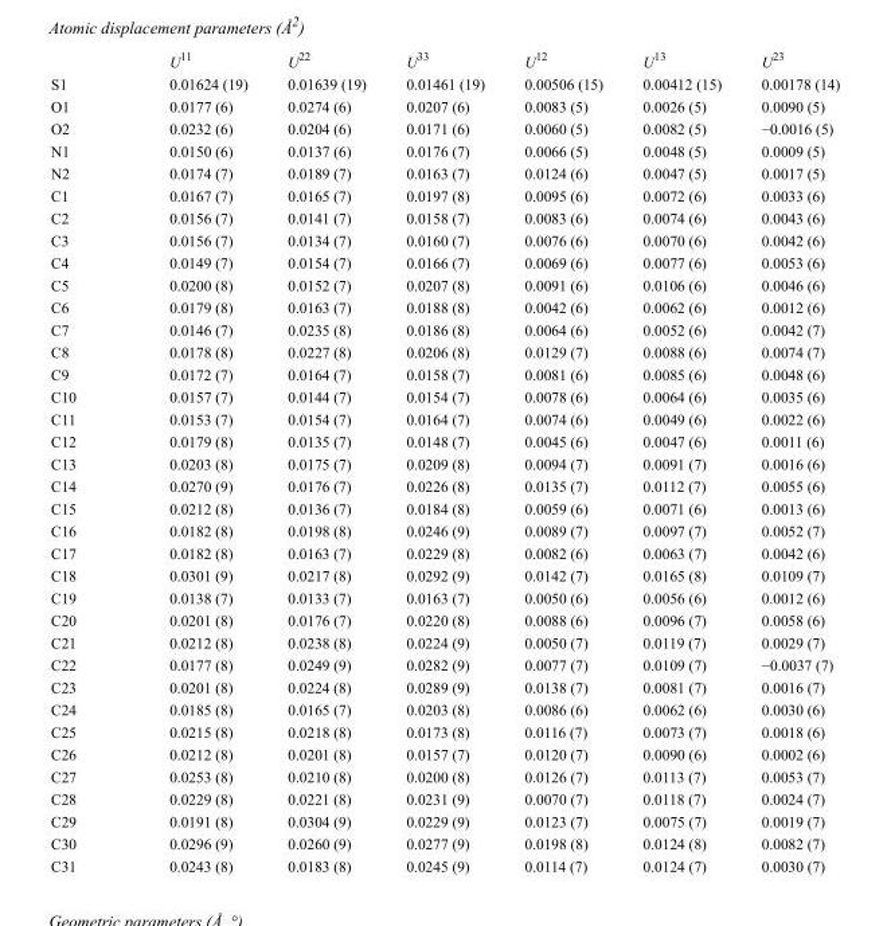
<table><thead><tr><td></td><td>U<sup>11</sup></td><td>U<sup>22</sup></td><td>U<sup>33</sup></td><td>U<sup>12</sup></td><td>U<sup>13</sup></td><td>U<sup>23</sup></td></tr></thead><tbody><tr><td>S1</td><td>0.01624 (19)</td><td>0.01639 (19)</td><td>0.01461 (19)</td><td>0.00506 (15)</td><td>0.00412 (15)</td><td>0.00178 (14)</td></tr><tr><td>O1</td><td>0.0177 (6)</td><td>0.0274 (6)</td><td>0.0207 (6)</td><td>0.0083 (5)</td><td>0.0026 (5)</td><td>0.0090 (5)</td></tr><tr><td>O2</td><td>0.0232 (6)</td><td>0.0204 (6)</td><td>0.0171 (6)</td><td>0.0060 (5)</td><td>0.0082 (5)</td><td>−0.0016 (5)</td></tr><tr><td>N1</td><td>0.0150 (6)</td><td>0.0137 (6)</td><td>0.0176 (7)</td><td>0.0066 (5)</td><td>0.0048 (5)</td><td>0.0009 (5)</td></tr><tr><td>N2</td><td>0.0174 (7)</td><td>0.0189 (7)</td><td>0.0163 (7)</td><td>0.0124 (6)</td><td>0.0047 (5)</td><td>0.0017 (5)</td></tr><tr><td>C1</td><td>0.0167 (7)</td><td>0.0165 (7)</td><td>0.0197 (8)</td><td>0.0095 (6)</td><td>0.0072 (6)</td><td>0.0033 (6)</td></tr><tr><td>C2</td><td>0.0156 (7)</td><td>0.0141 (7)</td><td>0.0158 (7)</td><td>0.0083 (6)</td><td>0.0074 (6)</td><td>0.0043 (6)</td></tr><tr><td>C3</td><td>0.0156 (7)</td><td>0.0134 (7)</td><td>0.0160 (7)</td><td>0.0076 (6)</td><td>0.0070 (6)</td><td>0.0042 (6)</td></tr><tr><td>C4</td><td>0.0149 (7)</td><td>0.0154 (7)</td><td>0.0166 (7)</td><td>0.0069 (6)</td><td>0.0077 (6)</td><td>0.0053 (6)</td></tr><tr><td>C5</td><td>0.0200 (8)</td><td>0.0152 (7)</td><td>0.0207 (8)</td><td>0.0091 (6)</td><td>0.0106 (6)</td><td>0.0046 (6)</td></tr><tr><td>C6</td><td>0.0179 (8)</td><td>0.0163 (7)</td><td>0.0188 (8)</td><td>0.0042 (6)</td><td>0.0062 (6)</td><td>0.0012 (6)</td></tr><tr><td>C7</td><td>0.0146 (7)</td><td>0.0235 (8)</td><td>0.0186 (8)</td><td>0.0064 (6)</td><td>0.0052 (6)</td><td>0.0042 (7)</td></tr><tr><td>C8</td><td>0.0178 (8)</td><td>0.0227 (8)</td><td>0.0206 (8)</td><td>0.0129 (7)</td><td>0.0088 (6)</td><td>0.0074 (7)</td></tr><tr><td>C9</td><td>0.0172 (7)</td><td>0.0164 (7)</td><td>0.0158 (7)</td><td>0.0081 (6)</td><td>0.0085 (6)</td><td>0.0048 (6)</td></tr><tr><td>C10</td><td>0.0157 (7)</td><td>0.0144 (7)</td><td>0.0154 (7)</td><td>0.0078 (6)</td><td>0.0064 (6)</td><td>0.0035 (6)</td></tr><tr><td>C11</td><td>0.0153 (7)</td><td>0.0154 (7)</td><td>0.0164 (7)</td><td>0.0074 (6)</td><td>0.0049 (6)</td><td>0.0022 (6)</td></tr><tr><td>C12</td><td>0.0179 (8)</td><td>0.0135 (7)</td><td>0.0148 (7)</td><td>0.0045 (6)</td><td>0.0047 (6)</td><td>0.0011 (6)</td></tr><tr><td>C13</td><td>0.0203 (8)</td><td>0.0175 (7)</td><td>0.0209 (8)</td><td>0.0094 (7)</td><td>0.0091 (7)</td><td>0.0016 (6)</td></tr><tr><td>C14</td><td>0.0270 (9)</td><td>0.0176 (7)</td><td>0.0226 (8)</td><td>0.0135 (7)</td><td>0.0112 (7)</td><td>0.0055 (6)</td></tr><tr><td>C15</td><td>0.0212 (8)</td><td>0.0136 (7)</td><td>0.0184 (8)</td><td>0.0059 (6)</td><td>0.0071 (6)</td><td>0.0013 (6)</td></tr><tr><td>C16</td><td>0.0182 (8)</td><td>0.0198 (8)</td><td>0.0246 (9)</td><td>0.0089 (7)</td><td>0.0097 (7)</td><td>0.0052 (7)</td></tr><tr><td>C17</td><td>0.0182 (8)</td><td>0.0163 (7)</td><td>0.0229 (8)</td><td>0.0082 (6)</td><td>0.0063 (7)</td><td>0.0042 (6)</td></tr><tr><td>C18</td><td>0.0301 (9)</td><td>0.0217 (8)</td><td>0.0292 (9)</td><td>0.0142 (7)</td><td>0.0165 (8)</td><td>0.0109 (7)</td></tr><tr><td>C19</td><td>0.0138 (7)</td><td>0.0133 (7)</td><td>0.0163 (7)</td><td>0.0050 (6)</td><td>0.0056 (6)</td><td>0.0012 (6)</td></tr><tr><td>C20</td><td>0.0201 (8)</td><td>0.0176 (7)</td><td>0.0220 (8)</td><td>0.0088 (6)</td><td>0.0096 (7)</td><td>0.0058 (6)</td></tr><tr><td>C21</td><td>0.0212 (8)</td><td>0.0238 (8)</td><td>0.0224 (9)</td><td>0.0050 (7)</td><td>0.0119 (7)</td><td>0.0029 (7)</td></tr><tr><td>C22</td><td>0.0177 (8)</td><td>0.0249 (9)</td><td>0.0282 (9)</td><td>0.0077 (7)</td><td>0.0109 (7)</td><td>−0.0037 (7)</td></tr><tr><td>C23</td><td>0.0201 (8)</td><td>0.0224 (8)</td><td>0.0289 (9)</td><td>0.0138 (7)</td><td>0.0081 (7)</td><td>0.0016 (7)</td></tr><tr><td>C24</td><td>0.0185 (8)</td><td>0.0165 (7)</td><td>0.0203 (8)</td><td>0.0086 (6)</td><td>0.0062 (6)</td><td>0.0030 (6)</td></tr><tr><td>C25</td><td>0.0215 (8)</td><td>0.0218 (8)</td><td>0.0173 (8)</td><td>0.0116 (7)</td><td>0.0073 (7)</td><td>0.0018 (6)</td></tr><tr><td>C26</td><td>0.0212 (8)</td><td>0.0201 (8)</td><td>0.0157 (7)</td><td>0.0120 (7)</td><td>0.0090 (6)</td><td>0.0002 (6)</td></tr><tr><td>C27</td><td>0.0253 (8)</td><td>0.0210 (8)</td><td>0.0200 (8)</td><td>0.0126 (7)</td><td>0.0113 (7)</td><td>0.0053 (7)</td></tr><tr><td>C28</td><td>0.0229 (8)</td><td>0.0221 (8)</td><td>0.0231 (9)</td><td>0.0070 (7)</td><td>0.0118 (7)</td><td>0.0024 (7)</td></tr><tr><td>C29</td><td>0.0191 (8)</td><td>0.0304 (9)</td><td>0.0229 (9)</td><td>0.0123 (7)</td><td>0.0075 (7)</td><td>0.0019 (7)</td></tr><tr><td>C30</td><td>0.0296 (9)</td><td>0.0260 (9)</td><td>0.0277 (9)</td><td>0.0198 (8)</td><td>0.0124 (8)</td><td>0.0082 (7)</td></tr><tr><td>C31</td><td>0.0243 (8)</td><td>0.0183 (8)</td><td>0.0245 (9)</td><td>0.0114 (7)</td><td>0.0124 (7)</td><td>0.0030 (7)</td></tr></tbody></table>